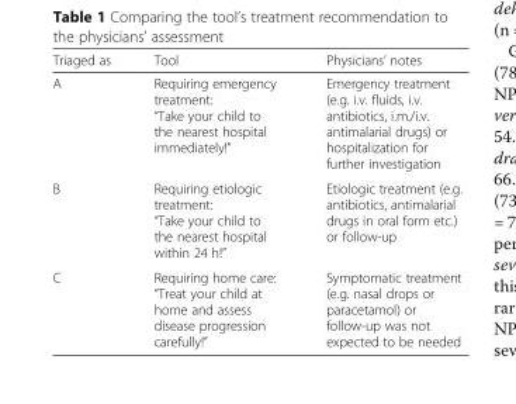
<table><thead><tr><td>Triaged as</td><td>Tool</td><td>Physicians’ notes</td></tr></thead><tbody><tr><td>A</td><td>Requiring emergency treatment: “Take your child to the nearest hospital immediately!”</td><td>Emergency treatment (e.g. i.v. fluids, i.v. antibiotics, i.m./i.v. antimalarial drugs) or hospitalization for further investigation</td></tr><tr><td>B</td><td>Requiring etiologic treatment: “Take your child to the nearest hospital within 24 h!”</td><td>Etiologic treatment (e.g. antibiotics, antimalarial drugs in oral form etc.) or follow-up</td></tr><tr><td>C</td><td>Requiring home care: “Treat your child at home and assess disease progression carefully!”</td><td>Symptomatic treatment (e.g. nasal drops or paracetamol) or follow-up was not expected to be needed</td></tr></tbody></table>